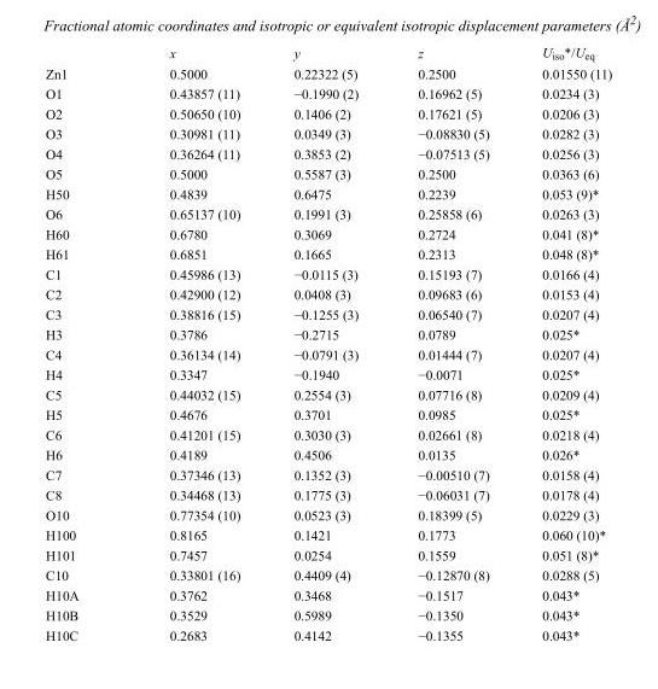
<table><thead><tr><td></td><td>x</td><td>y</td><td>z</td><td>U<sub>iso</sub>*/U<sub>eq</sub></td></tr></thead><tbody><tr><td>Zn1</td><td>0.5000</td><td>0.22322 (5)</td><td>0.2500</td><td>0.01550 (11)</td></tr><tr><td>O1</td><td>0.43857 (11)</td><td>−0.1990 (2)</td><td>0.16962 (5)</td><td>0.0234 (3)</td></tr><tr><td>O2</td><td>0.50650 (10)</td><td>0.1406 (2)</td><td>0.17621 (5)</td><td>0.0206 (3)</td></tr><tr><td>O3</td><td>0.30981 (11)</td><td>0.0349 (3)</td><td>−0.08830 (5)</td><td>0.0282 (3)</td></tr><tr><td>O4</td><td>0.36264 (11)</td><td>0.3853 (2)</td><td>−0.07513 (5)</td><td>0.0256 (3)</td></tr><tr><td>O5</td><td>0.5000</td><td>0.5587 (3)</td><td>0.2500</td><td>0.0363 (6)</td></tr><tr><td>H50</td><td>0.4839</td><td>0.6475</td><td>0.2239</td><td>0.053 (9)*</td></tr><tr><td>O6</td><td>0.65137 (10)</td><td>0.1991 (3)</td><td>0.25858 (6)</td><td>0.0263 (3)</td></tr><tr><td>H60</td><td>0.6780</td><td>0.3069</td><td>0.2724</td><td>0.041 (8)*</td></tr><tr><td>H61</td><td>0.6851</td><td>0.1665</td><td>0.2313</td><td>0.048 (8)*</td></tr><tr><td>C1</td><td>0.45986 (13)</td><td>−0.0115 (3)</td><td>0.15193 (7)</td><td>0.0166 (4)</td></tr><tr><td>C2</td><td>0.42900 (12)</td><td>0.0408 (3)</td><td>0.09683 (6)</td><td>0.0153 (4)</td></tr><tr><td>C3</td><td>0.38816 (15)</td><td>−0.1255 (3)</td><td>0.06540 (7)</td><td>0.0207 (4)</td></tr><tr><td>H3</td><td>0.3786</td><td>−0.2715</td><td>0.0789</td><td>0.025*</td></tr><tr><td>C4</td><td>0.36134 (14)</td><td>−0.0791 (3)</td><td>0.01444 (7)</td><td>0.0207 (4)</td></tr><tr><td>H4</td><td>0.3347</td><td>−0.1940</td><td>−0.0071</td><td>0.025*</td></tr><tr><td>C5</td><td>0.44032 (15)</td><td>0.2554 (3)</td><td>0.07716 (8)</td><td>0.0209 (4)</td></tr><tr><td>H5</td><td>0.4676</td><td>0.3701</td><td>0.0985</td><td>0.025*</td></tr><tr><td>C6</td><td>0.41201 (15)</td><td>0.3030 (3)</td><td>0.02661 (8)</td><td>0.0218 (4)</td></tr><tr><td>H6</td><td>0.4189</td><td>0.4506</td><td>0.0135</td><td>0.026*</td></tr><tr><td>C7</td><td>0.37346 (13)</td><td>0.1352 (3)</td><td>−0.00510 (7)</td><td>0.0158 (4)</td></tr><tr><td>C8</td><td>0.34468 (13)</td><td>0.1775 (3)</td><td>−0.06031 (7)</td><td>0.0178 (4)</td></tr><tr><td>O10</td><td>0.77354 (10)</td><td>0.0523 (3)</td><td>0.18399 (5)</td><td>0.0229 (3)</td></tr><tr><td>H100</td><td>0.8165</td><td>0.1421</td><td>0.1773</td><td>0.060 (10)*</td></tr><tr><td>H101</td><td>0.7457</td><td>0.0254</td><td>0.1559</td><td>0.051 (8)*</td></tr><tr><td>C10</td><td>0.33801 (16)</td><td>0.4409 (4)</td><td>−0.12870 (8)</td><td>0.0288 (5)</td></tr><tr><td>H10A</td><td>0.3762</td><td>0.3468</td><td>−0.1517</td><td>0.043*</td></tr><tr><td>H10B</td><td>0.3529</td><td>0.5989</td><td>−0.1350</td><td>0.043*</td></tr><tr><td>H10C</td><td>0.2683</td><td>0.4142</td><td>−0.1355</td><td>0.043*</td></tr></tbody></table>